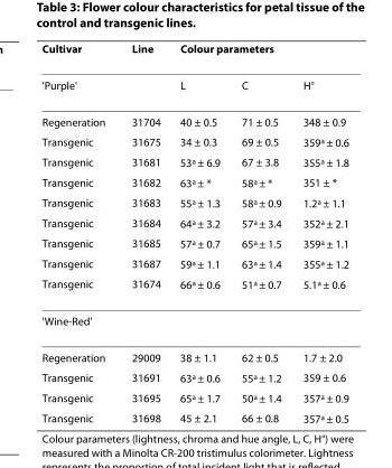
<table><thead><tr><td rowspan="2">Cultivar &#x27;Purple&#x27;</td><td rowspan="2">Line</td><td colspan="3">Colour parameters</td></tr><tr><td>L</td><td>C</td><td>H°</td></tr></thead><tbody><tr><td>Regeneration</td><td>31704</td><td>40 ± 0.5</td><td>71 ± 0.5</td><td>348 ± 0.9</td></tr><tr><td>Transgenic</td><td>31675</td><td>34 ± 0.3</td><td>69 ± 0.5</td><td>359<sup>a</sup> ± 0.6</td></tr><tr><td>Transgenic</td><td>31681</td><td>53<sup>a</sup> ± 6.9</td><td>67 ± 3.8</td><td>355<sup>a</sup> ± 1.8</td></tr><tr><td>Transgenic</td><td>31682</td><td>63<sup>a</sup> ± *</td><td>58<sup>a</sup> ± *</td><td>351 ± *</td></tr><tr><td>Transgenic</td><td>31683</td><td>55<sup>a</sup> ± 1.3</td><td>58<sup>a</sup> ± 0.9</td><td>1.2<sup>a</sup> ± 1.1</td></tr><tr><td>Transgenic</td><td>31684</td><td>64<sup>a</sup> ± 3.2</td><td>57<sup>a</sup> ± 3.4</td><td>352<sup>a</sup> ± 2.1</td></tr><tr><td>Transgenic</td><td>31685</td><td>57<sup>a</sup> ± 0.7</td><td>65<sup>a</sup> ± 1.5</td><td>359<sup>a</sup> ± 1.1</td></tr><tr><td>Transgenic</td><td>31687</td><td>59<sup>a</sup> ± 1.1</td><td>63<sup>a</sup> ± 1.4</td><td>355<sup>a</sup> ± 1.2</td></tr><tr><td>Transgenic</td><td>31674</td><td>66<sup>a</sup> ± 0.6</td><td>51<sup>a</sup> ± 0.7</td><td>5.1<sup>a</sup> ± 0.6</td></tr><tr><td colspan="5">&#x27;Wine-Red&#x27;</td></tr><tr><td>Regeneration</td><td>29009</td><td>38 ± 1.1</td><td>62 ± 0.5</td><td>1.7 ± 2.0</td></tr><tr><td>Transgenic</td><td>31691</td><td>63<sup>a</sup> ± 0.6</td><td>55<sup>a</sup> ± 1.2</td><td>359 ± 0.6</td></tr><tr><td>Transgenic</td><td>31695</td><td>65<sup>a</sup> ± 1.7</td><td>50<sup>a</sup> ± 1.4</td><td>357<sup>a</sup> ± 0.9</td></tr><tr><td>Transgenic</td><td>31698</td><td>45 ± 2.1</td><td>66 ± 0.8</td><td>357<sup>a</sup> ± 0.5</td></tr></tbody></table>